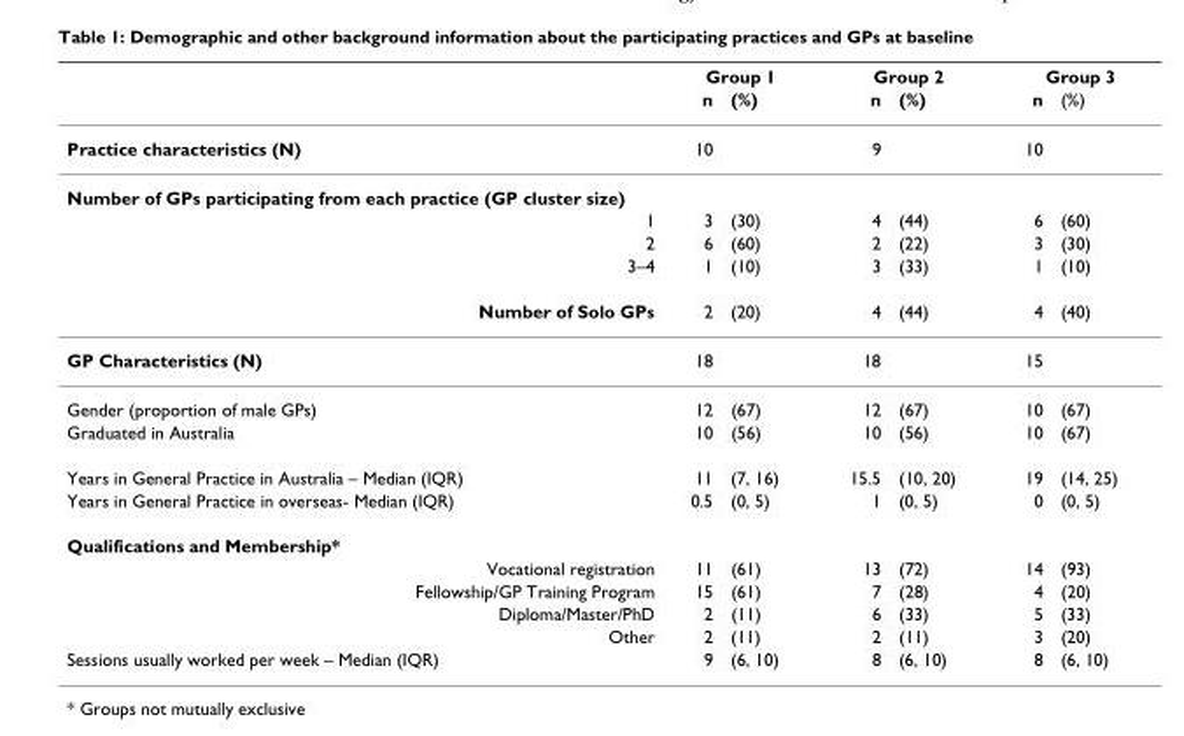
<table><thead><tr><td rowspan="2"></td><td colspan="2">Group 1</td><td colspan="2">Group 2</td><td colspan="2">Group 3</td></tr><tr><td>n</td><td>(%)</td><td>n</td><td>(%)</td><td>n</td><td>(%)</td></tr></thead><tbody><tr><td>Practice characteristics (N)</td><td>10</td><td></td><td>9</td><td></td><td>10</td><td></td></tr><tr><td colspan="7">Number of GPs participating from each practice (GP cluster size)</td></tr><tr><td>1</td><td>3</td><td>(30)</td><td>4</td><td>(44)</td><td>6</td><td>(60)</td></tr><tr><td>2</td><td>6</td><td>(60)</td><td>2</td><td>(22)</td><td>3</td><td>(30)</td></tr><tr><td>3–4</td><td>1</td><td>(10)</td><td>3</td><td>(33)</td><td>1</td><td>(10)</td></tr><tr><td>Number of Solo GPs</td><td>2</td><td>(20)</td><td>4</td><td>(44)</td><td>4</td><td>(40)</td></tr><tr><td>GP Characteristics (N)</td><td>18</td><td></td><td>18</td><td></td><td>15</td><td></td></tr><tr><td>Gender (proportion of male GPs)</td><td>12</td><td>(67)</td><td>12</td><td>(67)</td><td>10</td><td>(67)</td></tr><tr><td>Graduated in Australia</td><td>10</td><td>(56)</td><td>10</td><td>(56)</td><td>10</td><td>(67)</td></tr><tr><td>Years in General Practice in Australia – Median (IQR)</td><td>11</td><td>(7, 16)</td><td>15.5</td><td>(10, 20)</td><td>19</td><td>(14, 25)</td></tr><tr><td>Years in General Practice in overseas- Median (IQR)</td><td>0.5</td><td>(0, 5)</td><td>1</td><td>(0, 5)</td><td>0</td><td>(0, 5)</td></tr><tr><td colspan="7">Qualifications and Membership*</td></tr><tr><td>Vocational registration</td><td>11</td><td>(61)</td><td>13</td><td>(72)</td><td>14</td><td>(93)</td></tr><tr><td>Fellowship/GP Training Program</td><td>15</td><td>(61)</td><td>7</td><td>(28)</td><td>4</td><td>(20)</td></tr><tr><td>Diploma/Master/PhD</td><td>2</td><td>(11)</td><td>6</td><td>(33)</td><td>5</td><td>(33)</td></tr><tr><td>Other</td><td>2</td><td>(11)</td><td>2</td><td>(11)</td><td>3</td><td>(20)</td></tr><tr><td>Sessions usually worked per week – Median (IQR)</td><td>9</td><td>(6, 10)</td><td>8</td><td>(6, 10)</td><td>8</td><td>(6, 10)</td></tr></tbody></table>